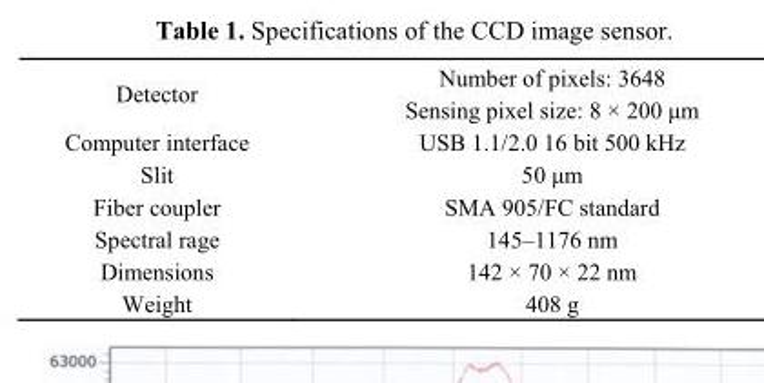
<table><tbody><tr><td>Detector</td><td>Number of pixels: 3648 Sensing pixel size: 8 × 200 μm</td></tr><tr><td>Computer interface</td><td>USB 1.1/2.0 16 bit 500 kHz</td></tr><tr><td>Slit</td><td>50 μm</td></tr><tr><td>Fiber coupler</td><td>SMA 905/FC standard</td></tr><tr><td>Spectral rage</td><td>145–1176 nm</td></tr><tr><td>Dimensions</td><td>142 × 70 × 22 nm</td></tr><tr><td>Weight</td><td>408 g</td></tr></tbody></table>